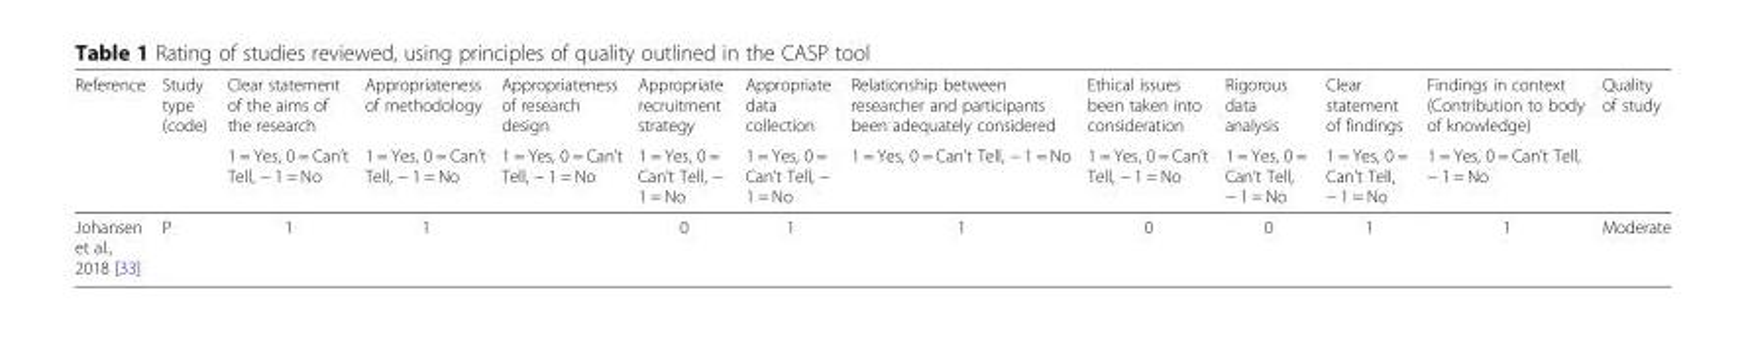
<table><thead><tr><td rowspan="2">Reference</td><td rowspan="2">Study type (code)</td><td rowspan="2">Clear statement of the aims of the research 1 = Yes, 0 = Can’t Tell, − 1 = No</td><td rowspan="2">Appropriateness of methodology 1 = Yes, 0 = Can’t Tell, − 1 = No</td><td rowspan="2">Appropriateness of research design 1 = Yes, 0 = Can’t Tell, − 1 = No</td><td rowspan="2">Appropriate recruitment strategy 1 = Yes, 0 = Can’t Tell, − 1 = No</td><td rowspan="2">Appropriate data collection 1 = Yes, 0 = Can’t Tell, − 1 = No</td><td rowspan="2">Relationship between researcher and participants been adequately considered 1 = Yes, 0 = Can’t Tell, − 1 = No</td><td rowspan="2">Ethical issues been taken into consideration 1 = Yes, 0 = Can’t Tell, − 1 = No</td><td rowspan="2">Rigorous data analysis 1 = Yes, 0 = Can’t Tell, − 1 = No</td><td rowspan="2">Clear statement of findings 1 = Yes, 0 = Can’t Tell, − 1 = No</td><td rowspan="2">Findings in context (Contribution to body of knowledge) 1 = Yes, 0 = Can’t Tell, − 1 = No</td><td rowspan="2">Quality of study</td></tr><tr></tr></thead><tbody><tr><td>Johansen et al., 2018 [33]</td><td>P</td><td>1</td><td>1</td><td></td><td>0</td><td>1</td><td>1</td><td>0</td><td>0</td><td>1</td><td>1</td><td>Moderate</td></tr></tbody></table>